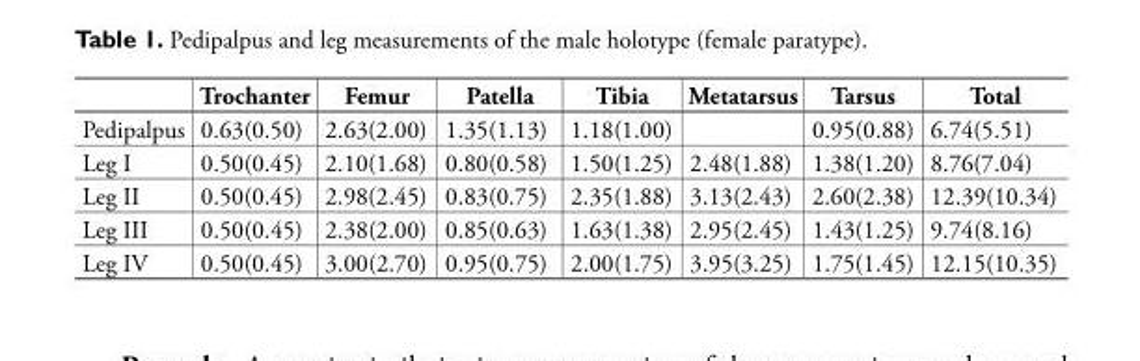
<table><thead><tr><td></td><td>Trochanter</td><td>Femur</td><td>Patella</td><td>Tibia</td><td>Metatarsus</td><td>Tarsus</td><td>Total</td></tr></thead><tbody><tr><td>Pedipalpus</td><td>0.63(0.50)</td><td>2.63(2.00)</td><td>1.35(1.13)</td><td>1.18(1.00)</td><td></td><td>0.95(0.88)</td><td>6.74(5.51)</td></tr><tr><td>Leg I</td><td>0.50(0.45)</td><td>2.10(1.68)</td><td>0.80(0.58)</td><td>1.50(1.25)</td><td>2.48(1.88)</td><td>1.38(1.20)</td><td>8.76(7.04)</td></tr><tr><td>Leg II</td><td>0.50(0.45)</td><td>2.98(2.45)</td><td>0.83(0.75)</td><td>2.35(1.88)</td><td>3.13(2.43)</td><td>2.60(2.38)</td><td>12.39(10.34)</td></tr><tr><td>Leg III</td><td>0.50(0.45)</td><td>2.38(2.00)</td><td>0.85(0.63)</td><td>1.63(1.38)</td><td>2.95(2.45)</td><td>1.43(1.25)</td><td>9.74(8.16)</td></tr><tr><td>Leg IV</td><td>0.50(0.45)</td><td>3.00(2.70)</td><td>0.95(0.75)</td><td>2.00(1.75)</td><td>3.95(3.25)</td><td>1.75(1.45)</td><td>12.15(10.35)</td></tr></tbody></table>